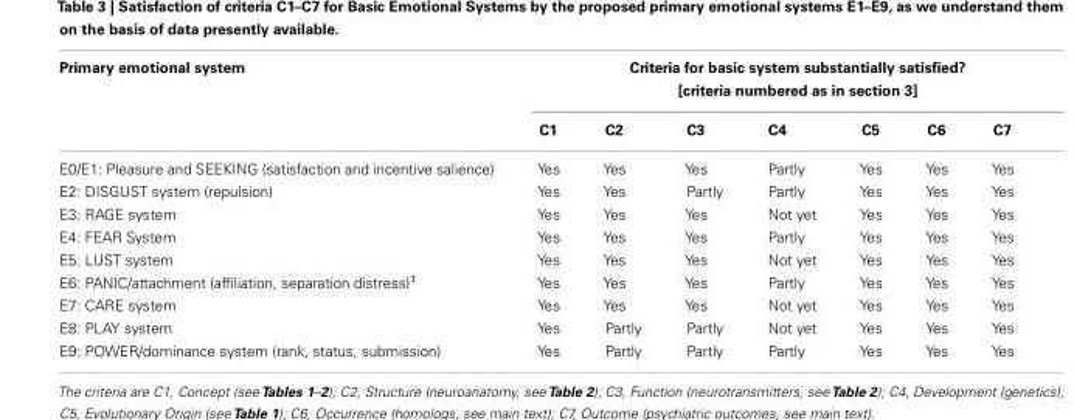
<table><thead><tr><td rowspan="2">Primary emotional system</td><td colspan="7">Criteria for basic system substantially satisfied? [criteria numbered as in section 3]</td></tr><tr><td>C1</td><td>C2</td><td>C3</td><td>C4</td><td>C5</td><td>C6</td><td>C7</td></tr></thead><tbody><tr><td>E0/E1: Pleasure and SEEKING (satisfaction and incentive salience)</td><td>Yes</td><td>Yes</td><td>Yes</td><td>Partly</td><td>Yes</td><td>Yes</td><td>Yes</td></tr><tr><td>E2: DISGUST system (repulsion)</td><td>Yes</td><td>Yes</td><td>Partly</td><td>Partly</td><td>Yes</td><td>Yes</td><td>Yes</td></tr><tr><td>E3: RAGE system</td><td>Yes</td><td>Yes</td><td>Yes</td><td>Not yet</td><td>Yes</td><td>Yes</td><td>Yes</td></tr><tr><td>E4: FEAR System</td><td>Yes</td><td>Yes</td><td>Yes</td><td>Partly</td><td>Yes</td><td>Yes</td><td>Yes</td></tr><tr><td>E5: LUST system</td><td>Yes</td><td>Yes</td><td>Yes</td><td>Not yet</td><td>Yes</td><td>Yes</td><td>Yes</td></tr><tr><td>E6: PANIC/attachment (affiliation, separation distress)<sup>‡</sup></td><td>Yes</td><td>Yes</td><td>Yes</td><td>Partly</td><td>Yes</td><td>Yes</td><td>Yes</td></tr><tr><td>E7: CARE system</td><td>Yes</td><td>Yes</td><td>Yes</td><td>Not yet</td><td>Yes</td><td>Yes</td><td>Yes</td></tr><tr><td>E8: PLAY system</td><td>Yes</td><td>Partly</td><td>Partly</td><td>Not yet</td><td>Yes</td><td>Yes</td><td>Yes</td></tr><tr><td>E9: POWER/dominance system (rank, status, submission)</td><td>Yes</td><td>Partly</td><td>Partly</td><td>Partly</td><td>Yes</td><td>Yes</td><td>Yes</td></tr></tbody></table>